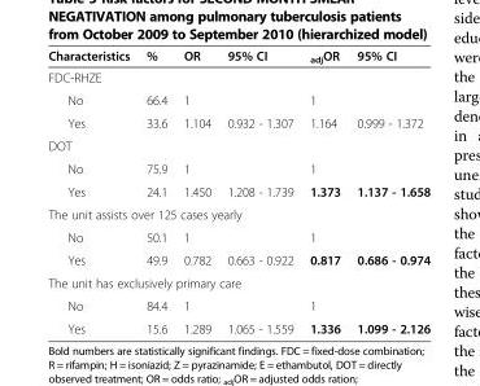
<table><thead><tr><td>Characteristics</td><td>%</td><td>OR</td><td>95% CI</td><td><sub>adj</sub>OR</td><td>95% CI</td></tr></thead><tbody><tr><td colspan="6">FDC-RHZE</td></tr><tr><td>No</td><td>66.4</td><td>1</td><td></td><td>1</td><td></td></tr><tr><td>Yes</td><td>33.6</td><td>1.104</td><td>0.932 - 1.307</td><td>1.164</td><td>0.999 - 1.372</td></tr><tr><td colspan="6">DOT</td></tr><tr><td>No</td><td>75.9</td><td>1</td><td></td><td>1</td><td></td></tr><tr><td>Yes</td><td>24.1</td><td>1.450</td><td>1.208 - 1.739</td><td>1.373</td><td>1.137 - 1.658</td></tr><tr><td colspan="6">The unit assists over 125 cases yearly</td></tr><tr><td>No</td><td>50.1</td><td>1</td><td></td><td>1</td><td></td></tr><tr><td>Yes</td><td>49.9</td><td>0.782</td><td>0.663 - 0.922</td><td>0.817</td><td>0.686 - 0.974</td></tr><tr><td colspan="6">The unit has exclusively primary care</td></tr><tr><td>No</td><td>84.4</td><td>1</td><td></td><td>1</td><td></td></tr><tr><td>Yes</td><td>15.6</td><td>1.289</td><td>1.065 - 1.559</td><td>1.336</td><td>1.099 - 2.126</td></tr></tbody></table>